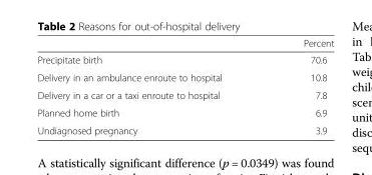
<table><thead><tr><td></td><td>Percent</td></tr></thead><tbody><tr><td>Precipitate birth</td><td>70.6</td></tr><tr><td>Delivery in an ambulance enroute to hospital</td><td>10.8</td></tr><tr><td>Delivery in a car or a taxi enroute to hospital</td><td>7.8</td></tr><tr><td>Planned home birth</td><td>6.9</td></tr><tr><td>Undiagnosed pregnancy</td><td>3.9</td></tr></tbody></table>